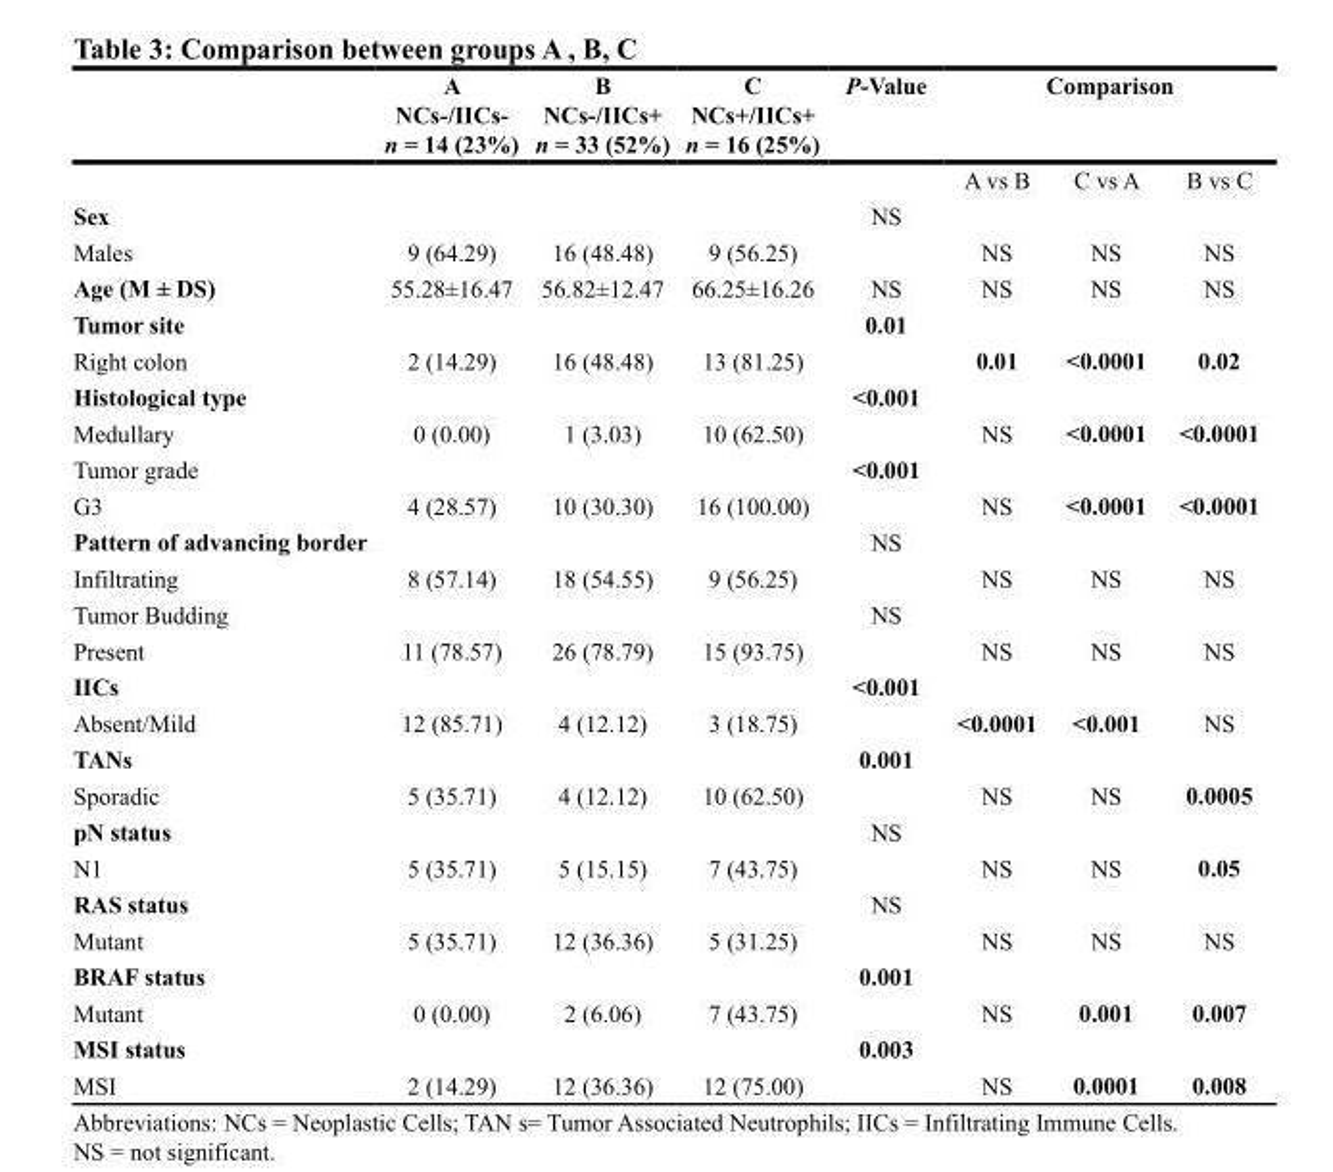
<table><thead><tr><td rowspan="2"></td><td rowspan="2">A NCs-/IICs- n = 14 (23%)</td><td rowspan="2">B NCs-/IICs+ n = 33 (52%)</td><td rowspan="2">C NCs+/IICs+ n = 16 (25%)</td><td rowspan="2">P-Value</td><td colspan="3">Comparison</td></tr><tr><td>A vs B</td><td>C vs A</td><td>B vs C</td></tr></thead><tbody><tr><td>Sex</td><td></td><td></td><td></td><td>NS</td><td></td><td></td><td></td></tr><tr><td>Males</td><td>9 (64.29)</td><td>16 (48.48)</td><td>9 (56.25)</td><td></td><td>NS</td><td>NS</td><td>NS</td></tr><tr><td>Age (M ± DS)</td><td>55.28±16.47</td><td>56.82±12.47</td><td>66.25±16.26</td><td>NS</td><td>NS</td><td>NS</td><td>NS</td></tr><tr><td>Tumor site</td><td></td><td></td><td></td><td>0.01</td><td></td><td></td><td></td></tr><tr><td>Right colon</td><td>2 (14.29)</td><td>16 (48.48)</td><td>13 (81.25)</td><td></td><td>0.01</td><td>&lt;0.0001</td><td>0.02</td></tr><tr><td>Histological type</td><td></td><td></td><td></td><td>&lt;0.001</td><td></td><td></td><td></td></tr><tr><td>Medullary</td><td>0 (0.00)</td><td>1 (3.03)</td><td>10 (62.50)</td><td></td><td>NS</td><td>&lt;0.0001</td><td>&lt;0.0001</td></tr><tr><td>Tumor grade</td><td></td><td></td><td></td><td>&lt;0.001</td><td></td><td></td><td></td></tr><tr><td>G3</td><td>4 (28.57)</td><td>10 (30.30)</td><td>16 (100.00)</td><td></td><td>NS</td><td>&lt;0.0001</td><td>&lt;0.0001</td></tr><tr><td>Pattern of advancing border</td><td></td><td></td><td></td><td>NS</td><td></td><td></td><td></td></tr><tr><td>Infiltrating</td><td>8 (57.14)</td><td>18 (54.55)</td><td>9 (56.25)</td><td></td><td>NS</td><td>NS</td><td>NS</td></tr><tr><td>Tumor Budding</td><td></td><td></td><td></td><td>NS</td><td></td><td></td><td></td></tr><tr><td>Present</td><td>11 (78.57)</td><td>26 (78.79)</td><td>15 (93.75)</td><td></td><td>NS</td><td>NS</td><td>NS</td></tr><tr><td>IICs</td><td></td><td></td><td></td><td>&lt;0.001</td><td></td><td></td><td></td></tr><tr><td>Absent/Mild</td><td>12 (85.71)</td><td>4 (12.12)</td><td>3 (18.75)</td><td></td><td>&lt;0.0001</td><td>&lt;0.001</td><td>NS</td></tr><tr><td>TANs</td><td></td><td></td><td></td><td>0.001</td><td></td><td></td><td></td></tr><tr><td>Sporadic</td><td>5 (35.71)</td><td>4 (12.12)</td><td>10 (62.50)</td><td></td><td>NS</td><td>NS</td><td>0.0005</td></tr><tr><td>pN status</td><td></td><td></td><td></td><td>NS</td><td></td><td></td><td></td></tr><tr><td>N1</td><td>5 (35.71)</td><td>5 (15.15)</td><td>7 (43.75)</td><td></td><td>NS</td><td>NS</td><td>0.05</td></tr><tr><td>RAS status</td><td></td><td></td><td></td><td>NS</td><td></td><td></td><td></td></tr><tr><td>Mutant</td><td>5 (35.71)</td><td>12 (36.36)</td><td>5 (31.25)</td><td></td><td>NS</td><td>NS</td><td>NS</td></tr><tr><td>BRAF status</td><td></td><td></td><td></td><td>0.001</td><td></td><td></td><td></td></tr><tr><td>Mutant</td><td>0 (0.00)</td><td>2 (6.06)</td><td>7 (43.75)</td><td></td><td>NS</td><td>0.001</td><td>0.007</td></tr><tr><td>MSI status</td><td></td><td></td><td></td><td>0.003</td><td></td><td></td><td></td></tr><tr><td>MSI</td><td>2 (14.29)</td><td>12 (36.36)</td><td>12 (75.00)</td><td></td><td>NS</td><td>0.0001</td><td>0.008</td></tr></tbody></table>